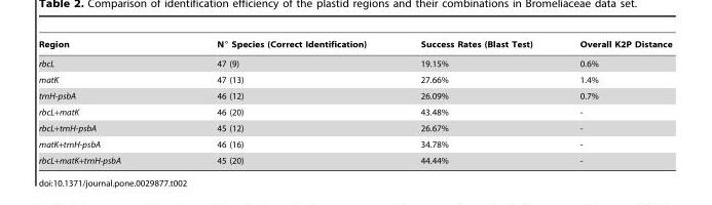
<table><thead><tr><td>Region</td><td>N° Species (Correct Identification)</td><td>Success Rates (Blast Test)</td><td>Overall K2P Distance</td></tr></thead><tbody><tr><td>rbcL</td><td>47 (9)</td><td>19.15%</td><td>0.6%</td></tr><tr><td>matK</td><td>47 (13)</td><td>27.66%</td><td>1.4%</td></tr><tr><td>trnH-psbA</td><td>46 (12)</td><td>26.09%</td><td>0.7%</td></tr><tr><td>rbcL+matK</td><td>46 (20)</td><td>43.48%</td><td>-</td></tr><tr><td>rbcL+trnH-psbA</td><td>45 (12)</td><td>26.67%</td><td>-</td></tr><tr><td>matK+trnH-psbA</td><td>46 (16)</td><td>34.78%</td><td>-</td></tr><tr><td>rbcL+matK+trnH-psbA</td><td>45 (20)</td><td>44.44%</td><td>-</td></tr></tbody></table>